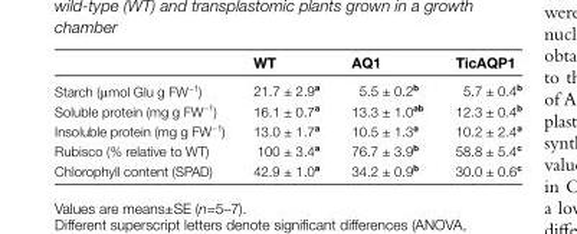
<table><thead><tr><td></td><td>WT</td><td>AQ1</td><td>TicAQP1</td></tr></thead><tbody><tr><td>Starch (μmol Glu g FW<sup>−1</sup>)</td><td>21.7 ± 2.9<sup>a</sup></td><td>5.5 ± 0.2<sup>b</sup></td><td>5.7 ± 0.4<sup>b</sup></td></tr><tr><td>Soluble protein (mg g FW<sup>−1</sup>)</td><td>16.1 ± 0.7<sup>a</sup></td><td>13.3 ± 1.0<sup>ab</sup></td><td>12.3 ± 0.4<sup>b</sup></td></tr><tr><td>Insoluble protein (mg g FW<sup>−1</sup>)</td><td>13.0 ± 1.7<sup>a</sup></td><td>10.5 ± 1.3<sup>a</sup></td><td>10.2 ± 2.4<sup>a</sup></td></tr><tr><td>Rubisco (% relative to WT)</td><td>100 ± 3.4<sup>a</sup></td><td>76.7 ± 3.9<sup>b</sup></td><td>58.8 ± 5.4<sup>c</sup></td></tr><tr><td>Chlorophyll content (SPAD)</td><td>42.9 ± 1.0<sup>a</sup></td><td>34.2 ± 0.9<sup>b</sup></td><td>30.0 ± 0.6<sup>c</sup></td></tr></tbody></table>